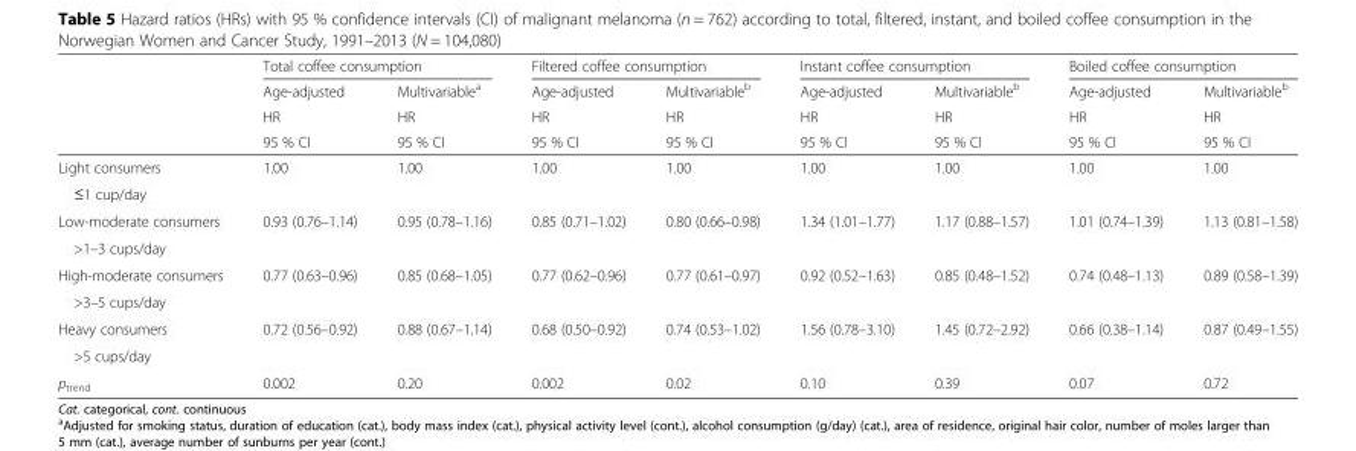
<table><thead><tr><td rowspan="4"></td><td colspan="2">Total coffee consumption</td><td colspan="2">Filtered coffee consumption</td><td colspan="2">Instant coffee consumption</td><td colspan="2">Boiled coffee consumption</td></tr><tr><td rowspan="3">Age-adjusted HR 95 % CI</td><td rowspan="3">Multivariable<sup>a</sup> HR 95 % CI</td><td rowspan="3">Age-adjusted HR 95 % CI</td><td rowspan="3">Multivariable<sup>b</sup> HR 95 % CI</td><td rowspan="3">Age-adjusted HR 95 % CI</td><td rowspan="3">Multivariable<sup>b</sup> HR 95 % CI</td><td rowspan="3">Age-adjusted HR 95 % CI</td><td rowspan="3">Multivariable<sup>b</sup> HR 95 % CI</td></tr><tr></tr><tr></tr></thead><tbody><tr><td>Light consumers</td><td rowspan="2">1.00</td><td rowspan="2">1.00</td><td rowspan="2">1.00</td><td rowspan="2">1.00</td><td rowspan="2">1.00</td><td rowspan="2">1.00</td><td rowspan="2">1.00</td><td rowspan="2">1.00</td></tr><tr><td>≤1 cup/day</td></tr><tr><td>Low-moderate consumers</td><td rowspan="2">0.93 (0.76–1.14)</td><td rowspan="2">0.95 (0.78–1.16)</td><td rowspan="2">0.85 (0.71–1.02)</td><td rowspan="2">0.80 (0.66–0.98)</td><td rowspan="2">1.34 (1.01–1.77)</td><td rowspan="2">1.17 (0.88–1.57)</td><td rowspan="2">1.01 (0.74–1.39)</td><td rowspan="2">1.13 (0.81–1.58)</td></tr><tr><td>&gt;1–3 cups/day</td></tr><tr><td>High-moderate consumers</td><td rowspan="2">0.77 (0.63–0.96)</td><td rowspan="2">0.85 (0.68–1.05)</td><td rowspan="2">0.77 (0.62–0.96)</td><td rowspan="2">0.77 (0.61–0.97)</td><td rowspan="2">0.92 (0.52–1.63)</td><td rowspan="2">0.85 (0.48–1.52)</td><td rowspan="2">0.74 (0.48–1.13)</td><td rowspan="2">0.89 (0.58–1.39)</td></tr><tr><td>&gt;3–5 cups/day</td></tr><tr><td>Heavy consumers</td><td rowspan="2">0.72 (0.56–0.92)</td><td rowspan="2">0.88 (0.67–1.14)</td><td rowspan="2">0.68 (0.50–0.92)</td><td rowspan="2">0.74 (0.53–1.02)</td><td rowspan="2">1.56 (0.78–3.10)</td><td rowspan="2">1.45 (0.72–2.92)</td><td rowspan="2">0.66 (0.38–1.14)</td><td rowspan="2">0.87 (0.49–1.55)</td></tr><tr><td>&gt;5 cups/day</td></tr><tr><td>p<sub>trend</sub></td><td>0.002</td><td>0.20</td><td>0.002</td><td>0.02</td><td>0.10</td><td>0.39</td><td>0.07</td><td>0.72</td></tr></tbody></table>